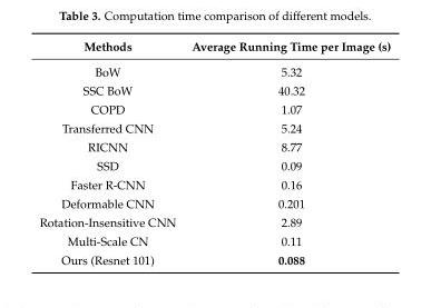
<table><thead><tr><td>Methods</td><td>Average Running Time per Image (s)</td></tr></thead><tbody><tr><td>BoW</td><td>5.32</td></tr><tr><td>SSC BoW</td><td>40.32</td></tr><tr><td>COPD</td><td>1.07</td></tr><tr><td>Transferred CNN</td><td>5.24</td></tr><tr><td>RICNN</td><td>8.77</td></tr><tr><td>SSD</td><td>0.09</td></tr><tr><td>Faster R-CNN</td><td>0.16</td></tr><tr><td>Deformable CNN</td><td>0.201</td></tr><tr><td>Rotation-Insensitive CNN</td><td>2.89</td></tr><tr><td>Multi-Scale CN</td><td>0.11</td></tr><tr><td>Ours (Resnet 101)</td><td>0.088</td></tr></tbody></table>